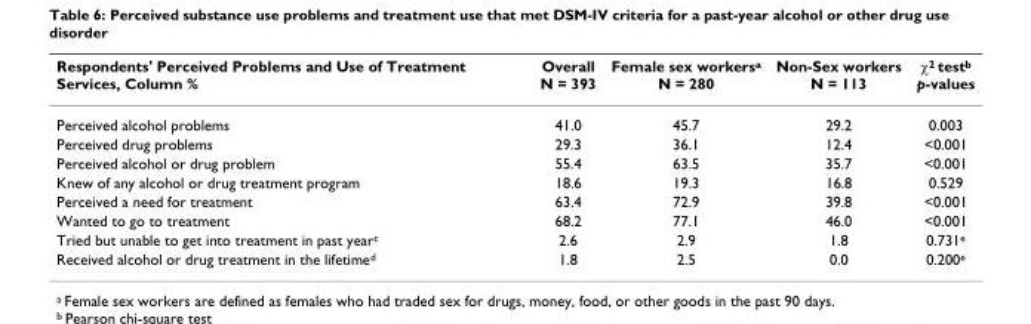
<table><thead><tr><td>Respondents&#x27; Perceived Problems and Use of Treatment Services, Column %</td><td>Overall N = 393</td><td>Female sex workers<sup>a</sup> N = 280</td><td>Non-Sex workers N = 113</td><td>χ<sup>2</sup> test<sup>b</sup> p-values</td></tr></thead><tbody><tr><td>Perceived alcohol problems</td><td>41.0</td><td>45.7</td><td>29.2</td><td>0.003</td></tr><tr><td>Perceived drug problems</td><td>29.3</td><td>36.1</td><td>12.4</td><td>&lt;0.001</td></tr><tr><td>Perceived alcohol or drug problem</td><td>55.4</td><td>63.5</td><td>35.7</td><td>&lt;0.001</td></tr><tr><td>Knew of any alcohol or drug treatment program</td><td>18.6</td><td>19.3</td><td>16.8</td><td>0.529</td></tr><tr><td>Perceived a need for treatment</td><td>63.4</td><td>72.9</td><td>39.8</td><td>&lt;0.001</td></tr><tr><td>Wanted to go to treatment</td><td>68.2</td><td>77.1</td><td>46.0</td><td>&lt;0.001</td></tr><tr><td>Tried but unable to get into treatment in past year<sup>c</sup></td><td>2.6</td><td>2.9</td><td>1.8</td><td>0.731<sup>e</sup></td></tr><tr><td>Received alcohol or drug treatment in the lifetime<sup>d</sup></td><td>1.8</td><td>2.5</td><td>0.0</td><td>0.200<sup>e</sup></td></tr></tbody></table>